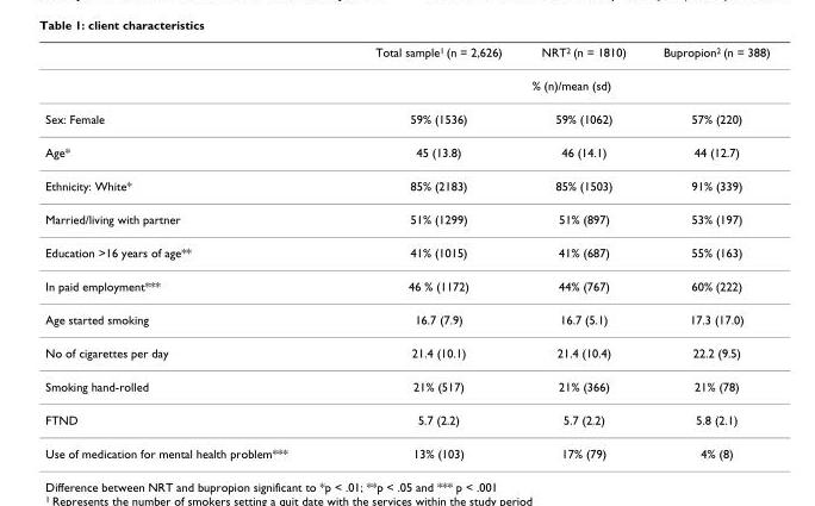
<table><thead><tr><td></td><td>Total sample<sup>1</sup> (n = 2,626)</td><td>NRT<sup>2</sup> (n = 1810)</td><td>Bupropion<sup>2</sup> (n = 388)</td></tr></thead><tbody><tr><td></td><td colspan="3">% (n)/mean (sd)</td></tr><tr><td>Sex: Female</td><td>59% (1536)</td><td>59% (1062)</td><td>57% (220)</td></tr><tr><td>Age*</td><td>45 (13.8)</td><td>46 (14.1)</td><td>44 (12.7)</td></tr><tr><td>Ethnicity: White*</td><td>85% (2183)</td><td>85% (1503)</td><td>91% (339)</td></tr><tr><td>Married/living with partner</td><td>51% (1299)</td><td>51% (897)</td><td>53% (197)</td></tr><tr><td>Education &gt;16 years of age**</td><td>41% (1015)</td><td>41% (687)</td><td>55% (163)</td></tr><tr><td>In paid employment***</td><td>46 % (1172)</td><td>44% (767)</td><td>60% (222)</td></tr><tr><td>Age started smoking</td><td>16.7 (7.9)</td><td>16.7 (5.1)</td><td>17.3 (17.0)</td></tr><tr><td>No of cigarettes per day</td><td>21.4 (10.1)</td><td>21.4 (10.4)</td><td>22.2 (9.5)</td></tr><tr><td>Smoking hand-rolled</td><td>21% (517)</td><td>21% (366)</td><td>21% (78)</td></tr><tr><td>FTND</td><td>5.7 (2.2)</td><td>5.7 (2.2)</td><td>5.8 (2.1)</td></tr><tr><td>Use of medication for mental health problem***</td><td>13% (103)</td><td>17% (79)</td><td>4% (8)</td></tr></tbody></table>